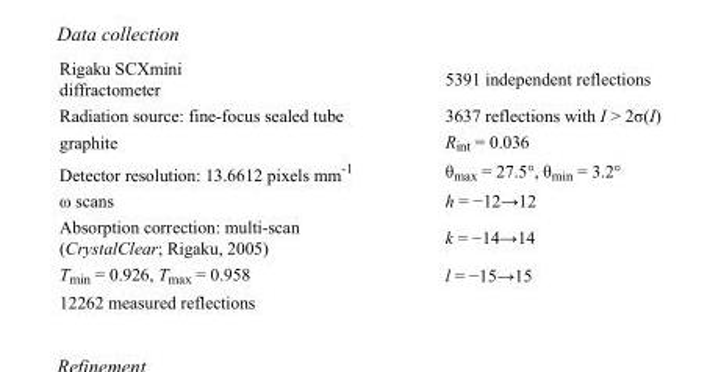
<table><tbody><tr><td>Rigaku SCXmini diffractometer</td><td>5391 independent reflections</td></tr><tr><td>Radiation source: fine-focus sealed tube</td><td>3637 reflections with I &gt; 2σ(I)</td></tr><tr><td>graphite</td><td>R<sub>int</sub> = 0.036</td></tr><tr><td>Detector resolution: 13.6612 pixels mm<sup>-1</sup></td><td>θ<sub>max</sub> = 27.5°, θ<sub>min</sub> = 3.2°</td></tr><tr><td>ω scans</td><td>h = −12→12</td></tr><tr><td>Absorption correction: multi-scan (CrystalClear; Rigaku, 2005)</td><td>k = −14→14</td></tr><tr><td>T<sub>min</sub> = 0.926, T<sub>max</sub> = 0.958</td><td>l = −15→15</td></tr><tr><td>12262 measured reflections</td><td></td></tr></tbody></table>